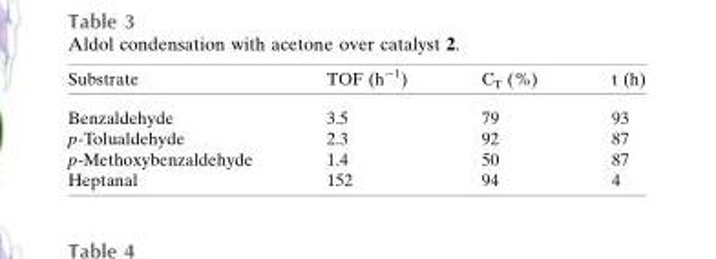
<table><thead><tr><td>Substrate</td><td>TOF (h<sup>−1</sup>)</td><td>C<sub>T</sub> (%)</td><td>t (h)</td></tr></thead><tbody><tr><td>Benzaldehyde</td><td>3.5</td><td>79</td><td>93</td></tr><tr><td>p-Tolualdehyde</td><td>2.3</td><td>92</td><td>87</td></tr><tr><td>p-Methoxybenzaldehyde</td><td>1.4</td><td>50</td><td>87</td></tr><tr><td>Heptanal</td><td>152</td><td>94</td><td>4</td></tr></tbody></table>